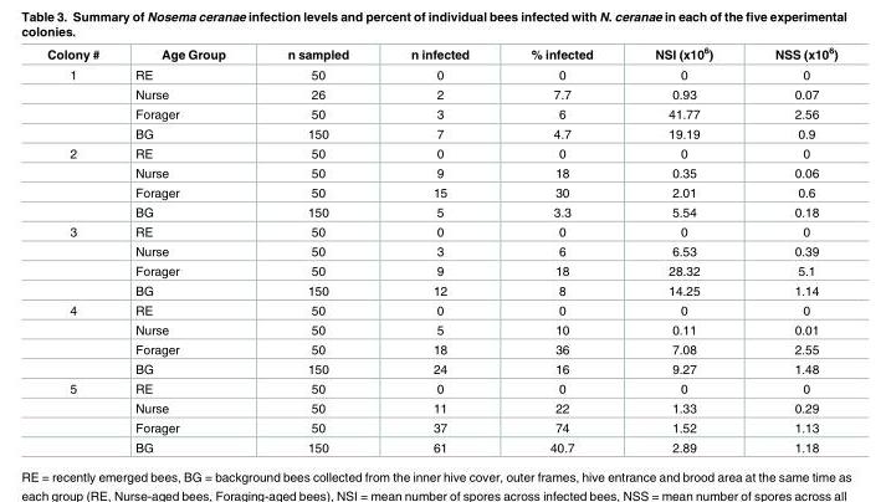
<table><thead><tr><td>Colony #</td><td>Age Group</td><td>n sampled</td><td>n infected</td><td>% infected</td><td>NSI (x10<sup>6</sup>)</td><td>NSS (x10<sup>6</sup>)</td></tr></thead><tbody><tr><td rowspan="4">1</td><td>RE</td><td>50</td><td>0</td><td>0</td><td>0</td><td>0</td></tr><tr><td>Nurse</td><td>26</td><td>2</td><td>7.7</td><td>0.93</td><td>0.07</td></tr><tr><td>Forager</td><td>50</td><td>3</td><td>6</td><td>41.77</td><td>2.56</td></tr><tr><td>BG</td><td>150</td><td>7</td><td>4.7</td><td>19.19</td><td>0.9</td></tr><tr><td rowspan="4">2</td><td>RE</td><td>50</td><td>0</td><td>0</td><td>0</td><td>0</td></tr><tr><td>Nurse</td><td>50</td><td>9</td><td>18</td><td>0.35</td><td>0.06</td></tr><tr><td>Forager</td><td>50</td><td>15</td><td>30</td><td>2.01</td><td>0.6</td></tr><tr><td>BG</td><td>150</td><td>5</td><td>3.3</td><td>5.54</td><td>0.18</td></tr><tr><td rowspan="4">3</td><td>RE</td><td>50</td><td>0</td><td>0</td><td>0</td><td>0</td></tr><tr><td>Nurse</td><td>50</td><td>3</td><td>6</td><td>6.53</td><td>0.39</td></tr><tr><td>Forager</td><td>50</td><td>9</td><td>18</td><td>28.32</td><td>5.1</td></tr><tr><td>BG</td><td>150</td><td>12</td><td>8</td><td>14.25</td><td>1.14</td></tr><tr><td rowspan="4">4</td><td>RE</td><td>50</td><td>0</td><td>0</td><td>0</td><td>0</td></tr><tr><td>Nurse</td><td>50</td><td>5</td><td>10</td><td>0.11</td><td>0.01</td></tr><tr><td>Forager</td><td>50</td><td>18</td><td>36</td><td>7.08</td><td>2.55</td></tr><tr><td>BG</td><td>150</td><td>24</td><td>16</td><td>9.27</td><td>1.48</td></tr><tr><td rowspan="4">5</td><td>RE</td><td>50</td><td>0</td><td>0</td><td>0</td><td>0</td></tr><tr><td>Nurse</td><td>50</td><td>11</td><td>22</td><td>1.33</td><td>0.29</td></tr><tr><td>Forager</td><td>50</td><td>37</td><td>74</td><td>1.52</td><td>1.13</td></tr><tr><td>BG</td><td>150</td><td>61</td><td>40.7</td><td>2.89</td><td>1.18</td></tr></tbody></table>